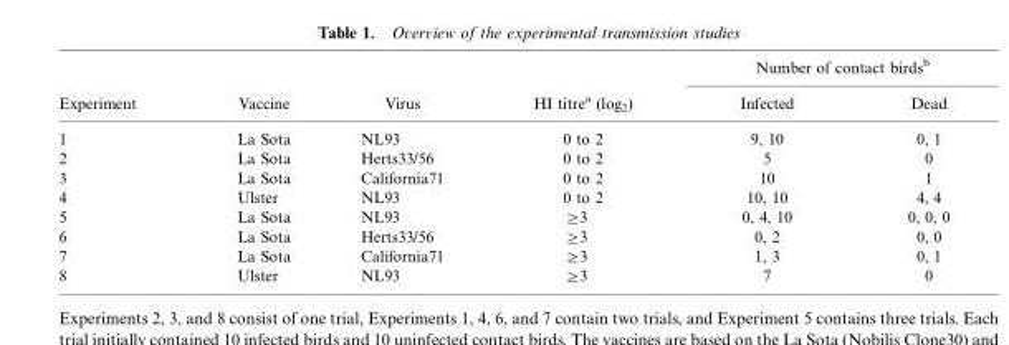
<table><thead><tr><td rowspan="2">Experiment</td><td rowspan="2">Vaccine</td><td rowspan="2">Virus</td><td rowspan="2">HI titre<sup>a</sup> (log<sub>2</sub>)</td><td colspan="2">Number of contact birds<sup>b</sup></td></tr><tr><td>Infected</td><td>Dead</td></tr></thead><tbody><tr><td>1</td><td>La Sota</td><td>NL93</td><td>0 to 2</td><td>9, 10</td><td>0, 1</td></tr><tr><td>2</td><td>La Sota</td><td>Herts33/56</td><td>0 to 2</td><td>5</td><td>0</td></tr><tr><td>3</td><td>La Sota</td><td>California71</td><td>0 to 2</td><td>10</td><td>1</td></tr><tr><td>4</td><td>Ulster</td><td>NL93</td><td>0 to 2</td><td>10, 10</td><td>4, 4</td></tr><tr><td>5</td><td>La Sota</td><td>NL93</td><td>≥3</td><td>0, 4, 10</td><td>0, 0, 0</td></tr><tr><td>6</td><td>La Sota</td><td>Herts33/56</td><td>≥3</td><td>0, 2</td><td>0, 0</td></tr><tr><td>7</td><td>La Sota</td><td>California71</td><td>≥3</td><td>1, 3</td><td>0, 1</td></tr><tr><td>8</td><td>Ulster</td><td>NL93</td><td>≥3</td><td>7</td><td>0</td></tr></tbody></table>